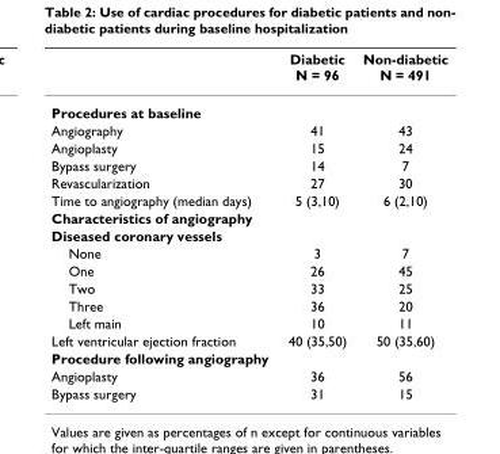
<table><thead><tr><td></td><td>Diabetic N = 96</td><td>Non-diabetic N = 491</td></tr></thead><tbody><tr><td colspan="3">Procedures at baseline</td></tr><tr><td>Angiography</td><td>41</td><td>43</td></tr><tr><td>Angioplasty</td><td>15</td><td>24</td></tr><tr><td>Bypass surgery</td><td>14</td><td>7</td></tr><tr><td>Revascularization</td><td>27</td><td>30</td></tr><tr><td>Time to angiography (median days)</td><td>5 (3,10)</td><td>6 (2,10)</td></tr><tr><td colspan="3">Characteristics of angiography</td></tr><tr><td colspan="3">Diseased coronary vessels</td></tr><tr><td>None</td><td>3</td><td>7</td></tr><tr><td>One</td><td>26</td><td>45</td></tr><tr><td>Two</td><td>33</td><td>25</td></tr><tr><td>Three</td><td>36</td><td>20</td></tr><tr><td>Left main</td><td>10</td><td>11</td></tr><tr><td>Left ventricular ejection fraction</td><td>40 (35,50)</td><td>50 (35,60)</td></tr><tr><td colspan="3">Procedure following angiography</td></tr><tr><td>Angioplasty</td><td>36</td><td>56</td></tr><tr><td>Bypass surgery</td><td>31</td><td>15</td></tr></tbody></table>